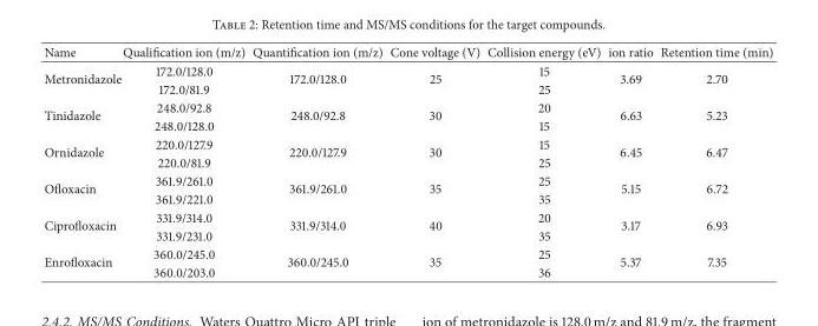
<table><thead><tr><td>Name</td><td>Qualification ion (m/z)</td><td>Quantification ion (m/z)</td><td>Cone voltage (V)</td><td>Collision energy (eV)</td><td>ion ratio</td><td>Retention time (min)</td></tr></thead><tbody><tr><td rowspan="2">Metronidazole</td><td>172.0/128.0</td><td rowspan="2">172.0/128.0</td><td rowspan="2">25</td><td>15</td><td rowspan="2">3.69</td><td rowspan="2">2.70</td></tr><tr><td>172.0/81.9</td><td>25</td></tr><tr><td rowspan="2">Tinidazole</td><td>248.0/92.8</td><td rowspan="2">248.0/92.8</td><td rowspan="2">30</td><td>20</td><td rowspan="2">6.63</td><td rowspan="2">5.23</td></tr><tr><td>248.0/128.0</td><td>15</td></tr><tr><td rowspan="2">Ornidazole</td><td>220.0/127.9</td><td rowspan="2">220.0/127.9</td><td rowspan="2">30</td><td>15</td><td rowspan="2">6.45</td><td rowspan="2">6.47</td></tr><tr><td>220.0/81.9</td><td>25</td></tr><tr><td rowspan="2">Ofloxacin</td><td>361.9/261.0</td><td rowspan="2">361.9/261.0</td><td rowspan="2">35</td><td>25</td><td rowspan="2">5.15</td><td rowspan="2">6.72</td></tr><tr><td>361.9/221.0</td><td>35</td></tr><tr><td rowspan="2">Ciprofloxacin</td><td>331.9/314.0</td><td rowspan="2">331.9/314.0</td><td rowspan="2">40</td><td>20</td><td rowspan="2">3.17</td><td rowspan="2">6.93</td></tr><tr><td>331.9/231.0</td><td>35</td></tr><tr><td rowspan="2">Enrofloxacin</td><td>360.0/245.0</td><td rowspan="2">360.0/245.0</td><td rowspan="2">35</td><td>25</td><td rowspan="2">5.37</td><td rowspan="2">7.35</td></tr><tr><td>360.0/203.0</td><td>36</td></tr></tbody></table>